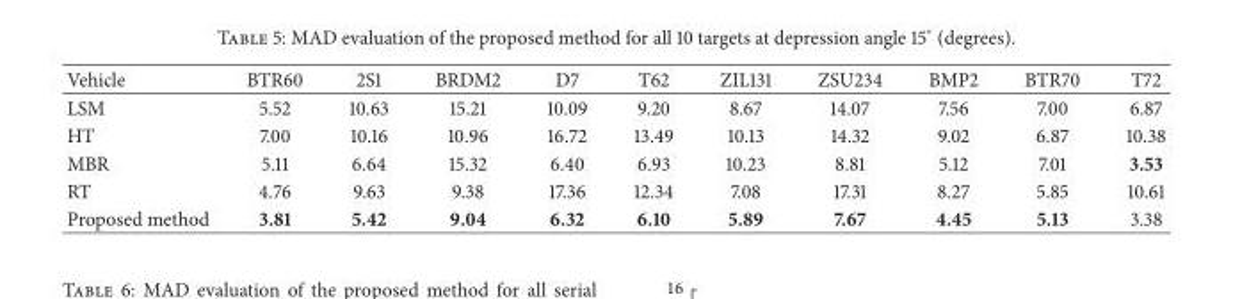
<table><thead><tr><td>Vehicle</td><td>BTR60</td><td>2S1</td><td>BRDM2</td><td>D7</td><td>T62</td><td>ZIL131</td><td>ZSU234</td><td>BMP2</td><td>BTR70</td><td>T72</td></tr></thead><tbody><tr><td>LSM</td><td>5.52</td><td>10.63</td><td>15.21</td><td>10.09</td><td>9.20</td><td>8.67</td><td>14.07</td><td>7.56</td><td>7.00</td><td>6.87</td></tr><tr><td>HT</td><td>7.00</td><td>10.16</td><td>10.96</td><td>16.72</td><td>13.49</td><td>10.13</td><td>14.32</td><td>9.02</td><td>6.87</td><td>10.38</td></tr><tr><td>MBR</td><td>5.11</td><td>6.64</td><td>15.32</td><td>6.40</td><td>6.93</td><td>10.23</td><td>8.81</td><td>5.12</td><td>7.01</td><td>3.53</td></tr><tr><td>RT</td><td>4.76</td><td>9.63</td><td>9.38</td><td>17.36</td><td>12.34</td><td>7.08</td><td>17.31</td><td>8.27</td><td>5.85</td><td>10.61</td></tr><tr><td>Proposed method</td><td>3.81</td><td>5.42</td><td>9.04</td><td>6.32</td><td>6.10</td><td>5.89</td><td>7.67</td><td>4.45</td><td>5.13</td><td>3.38</td></tr></tbody></table>